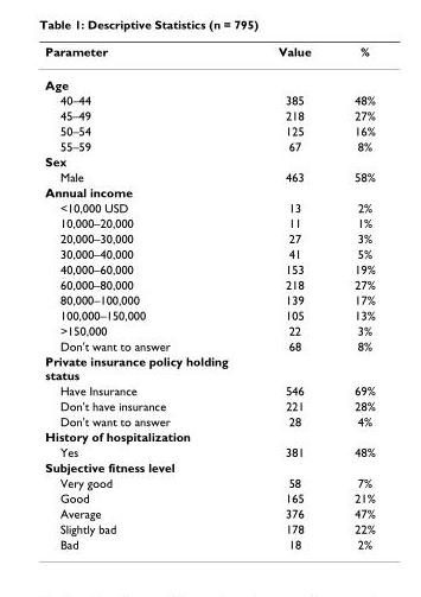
<table><thead><tr><td>Parameter</td><td>Value</td><td>%</td></tr></thead><tbody><tr><td colspan="3">Age</td></tr><tr><td>40–44</td><td>385</td><td>48%</td></tr><tr><td>45–49</td><td>218</td><td>27%</td></tr><tr><td>50–54</td><td>125</td><td>16%</td></tr><tr><td>55–59</td><td>67</td><td>8%</td></tr><tr><td colspan="3">Sex</td></tr><tr><td>Male</td><td>463</td><td>58%</td></tr><tr><td colspan="3">Annual income</td></tr><tr><td>&lt;10,000 USD</td><td>13</td><td>2%</td></tr><tr><td>10,000–20,000</td><td>11</td><td>1%</td></tr><tr><td>20,000–30,000</td><td>27</td><td>3%</td></tr><tr><td>30,000–40,000</td><td>41</td><td>5%</td></tr><tr><td>40,000–60,000</td><td>153</td><td>19%</td></tr><tr><td>60,000–80,000</td><td>218</td><td>27%</td></tr><tr><td>80,000–100,000</td><td>139</td><td>17%</td></tr><tr><td>100,000–150,000</td><td>105</td><td>13%</td></tr><tr><td>&gt;150,000</td><td>22</td><td>3%</td></tr><tr><td>Don&#x27;t want to answer</td><td>68</td><td>8%</td></tr><tr><td colspan="3">Private insurance policy holding status</td></tr><tr><td>Have Insurance</td><td>546</td><td>69%</td></tr><tr><td>Don&#x27;t have insurance</td><td>221</td><td>28%</td></tr><tr><td>Don&#x27;t want to answer</td><td>28</td><td>4%</td></tr><tr><td colspan="3">History of hospitalization</td></tr><tr><td>Yes</td><td>381</td><td>48%</td></tr><tr><td colspan="3">Subjective fitness level</td></tr><tr><td>Very good</td><td>58</td><td>7%</td></tr><tr><td>Good</td><td>165</td><td>21%</td></tr><tr><td>Average</td><td>376</td><td>47%</td></tr><tr><td>Slightly bad</td><td>178</td><td>22%</td></tr><tr><td>Bad</td><td>18</td><td>2%</td></tr></tbody></table>